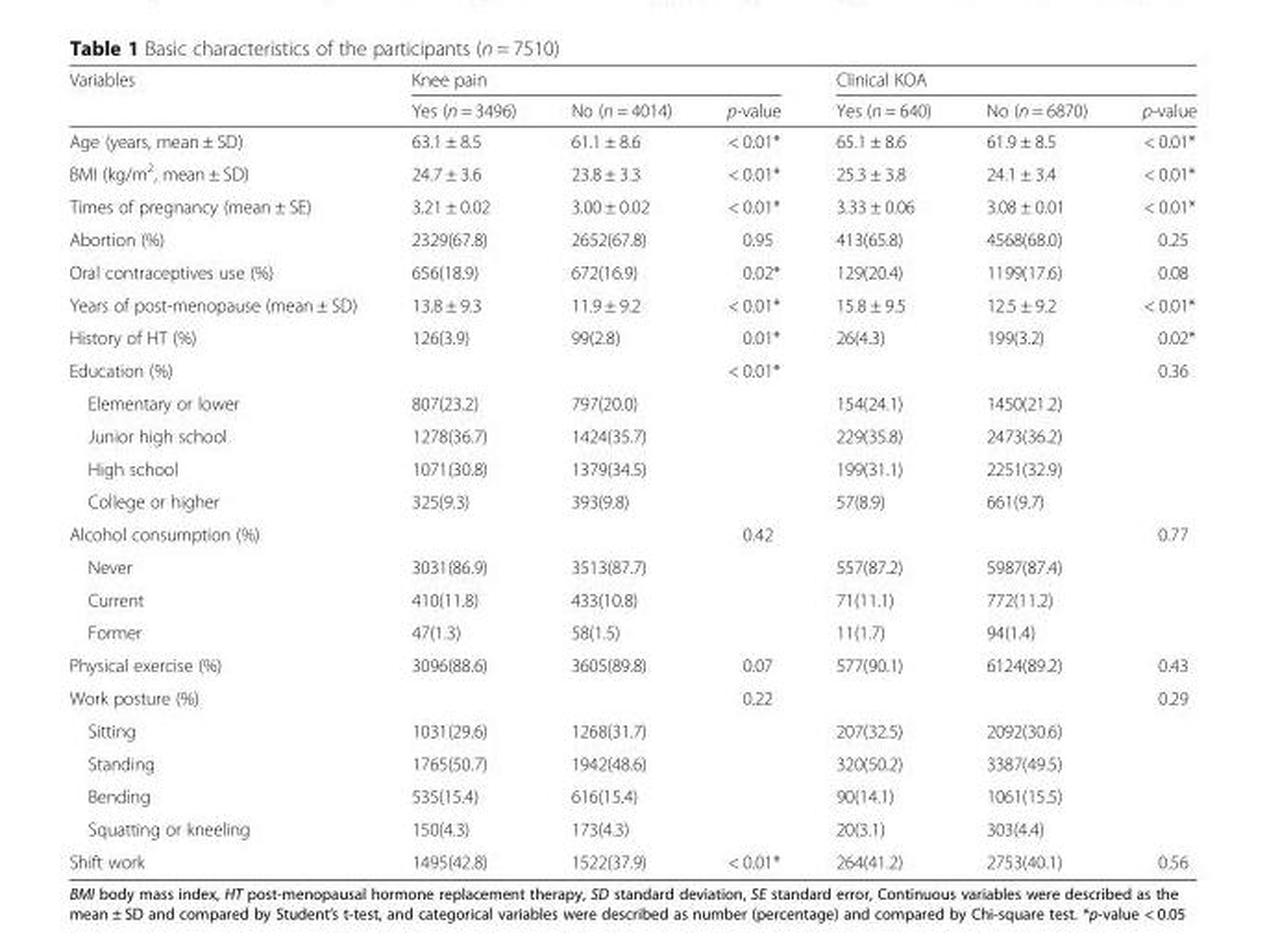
<table><thead><tr><td rowspan="2">Variables</td><td colspan="3">Knee pain</td><td colspan="3">Clinical KOA</td></tr><tr><td>Yes (n = 3496)</td><td>No (n = 4014)</td><td>p-value</td><td>Yes (n = 640)</td><td>No (n = 6870)</td><td>p-value</td></tr></thead><tbody><tr><td>Age (years, mean ± SD)</td><td>63.1 ± 8.5</td><td>61.1 ± 8.6</td><td>&lt; 0.01*</td><td>65.1 ± 8.6</td><td>61.9 ± 8.5</td><td>&lt; 0.01*</td></tr><tr><td>BMI (kg/m<sup>2</sup>, mean ± SD)</td><td>24.7 ± 3.6</td><td>23.8 ± 3.3</td><td>&lt; 0.01*</td><td>25.3 ± 3.8</td><td>24.1 ± 3.4</td><td>&lt; 0.01*</td></tr><tr><td>Times of pregnancy (mean ± SE)</td><td>3.21 ± 0.02</td><td>3.00 ± 0.02</td><td>&lt; 0.01*</td><td>3.33 ± 0.06</td><td>3.08 ± 0.01</td><td>&lt; 0.01*</td></tr><tr><td>Abortion (%)</td><td>2329(67.8)</td><td>2652(67.8)</td><td>0.95</td><td>413(65.8)</td><td>4568(68.0)</td><td>0.25</td></tr><tr><td>Oral contraceptives use (%)</td><td>656(18.9)</td><td>672(16.9)</td><td>0.02*</td><td>129(20.4)</td><td>1199(17.6)</td><td>0.08</td></tr><tr><td>Years of post-menopause (mean ± SD)</td><td>13.8 ± 9.3</td><td>11.9 ± 9.2</td><td>&lt; 0.01*</td><td>15.8 ± 9.5</td><td>12.5 ± 9.2</td><td>&lt; 0.01*</td></tr><tr><td>History of HT (%)</td><td>126(3.9)</td><td>99(2.8)</td><td>0.01*</td><td>26(4.3)</td><td>199(3.2)</td><td>0.02*</td></tr><tr><td>Education (%)</td><td></td><td></td><td>&lt; 0.01*</td><td></td><td></td><td>0.36</td></tr><tr><td>Elementary or lower</td><td>807(23.2)</td><td>797(20.0)</td><td></td><td>154(24.1)</td><td>1450(21.2)</td><td></td></tr><tr><td>Junior high school</td><td>1278(36.7)</td><td>1424(35.7)</td><td></td><td>229(35.8)</td><td>2473(36.2)</td><td></td></tr><tr><td>High school</td><td>1071(30.8)</td><td>1379(34.5)</td><td></td><td>199(31.1)</td><td>2251(32.9)</td><td></td></tr><tr><td>College or higher</td><td>325(9.3)</td><td>393(9.8)</td><td></td><td>57(8.9)</td><td>661(9.7)</td><td></td></tr><tr><td>Alcohol consumption (%)</td><td></td><td></td><td>0.42</td><td></td><td></td><td>0.77</td></tr><tr><td>Never</td><td>3031(86.9)</td><td>3513(87.7)</td><td></td><td>557(87.2)</td><td>5987(87.4)</td><td></td></tr><tr><td>Current</td><td>410(11.8)</td><td>433(10.8)</td><td></td><td>71(11.1)</td><td>772(11.2)</td><td></td></tr><tr><td>Former</td><td>47(1.3)</td><td>58(1.5)</td><td></td><td>11(1.7)</td><td>94(1.4)</td><td></td></tr><tr><td>Physical exercise (%)</td><td>3096(88.6)</td><td>3605(89.8)</td><td>0.07</td><td>577(90.1)</td><td>6124(89.2)</td><td>0.43</td></tr><tr><td>Work posture (%)</td><td></td><td></td><td>0.22</td><td></td><td></td><td>0.29</td></tr><tr><td>Sitting</td><td>1031(29.6)</td><td>1268(31.7)</td><td></td><td>207(32.5)</td><td>2092(30.6)</td><td></td></tr><tr><td>Standing</td><td>1765(50.7)</td><td>1942(48.6)</td><td></td><td>320(50.2)</td><td>3387(49.5)</td><td></td></tr><tr><td>Bending</td><td>535(15.4)</td><td>616(15.4)</td><td></td><td>90(14.1)</td><td>1061(15.5)</td><td></td></tr><tr><td>Squatting or kneeling</td><td>150(4.3)</td><td>173(4.3)</td><td></td><td>20(3.1)</td><td>303(4.4)</td><td></td></tr><tr><td>Shift work</td><td>1495(42.8)</td><td>1522(37.9)</td><td>&lt; 0.01*</td><td>264(41.2)</td><td>2753(40.1)</td><td>0.56</td></tr></tbody></table>